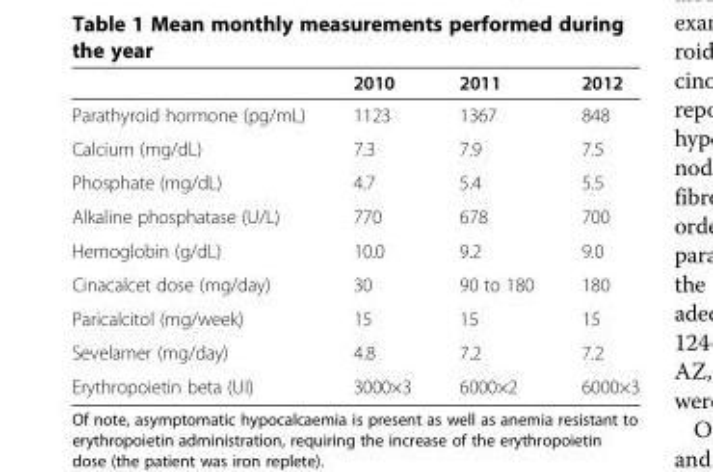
<table><thead><tr><td></td><td>2010</td><td>2011</td><td>2012</td></tr></thead><tbody><tr><td>Parathyroid hormone (pg/mL)</td><td>1123</td><td>1367</td><td>848</td></tr><tr><td>Calcium (mg/dL)</td><td>7.3</td><td>7.9</td><td>7.5</td></tr><tr><td>Phosphate (mg/dL)</td><td>4.7</td><td>5.4</td><td>5.5</td></tr><tr><td>Alkaline phosphatase (U/L)</td><td>770</td><td>678</td><td>700</td></tr><tr><td>Hemoglobin (g/dL)</td><td>10.0</td><td>9.2</td><td>9.0</td></tr><tr><td>Cinacalcet dose (mg/day)</td><td>30</td><td>90 to 180</td><td>180</td></tr><tr><td>Paricalcitol (mg/week)</td><td>15</td><td>15</td><td>15</td></tr><tr><td>Sevelamer (mg/day)</td><td>4.8</td><td>7.2</td><td>7.2</td></tr><tr><td>Erythropoietin beta (UI)</td><td>3000×3</td><td>6000×2</td><td>6000×3</td></tr></tbody></table>